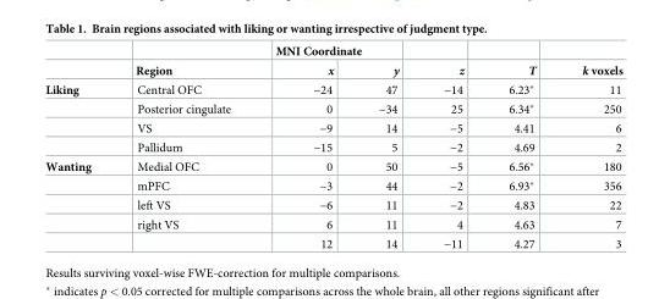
<table><thead><tr><td rowspan="2"></td><td rowspan="2">Region</td><td colspan="2">MNI Coordinate</td><td rowspan="2">z</td><td rowspan="2">T</td><td rowspan="2">k voxels</td></tr><tr><td>x</td><td>y</td></tr></thead><tbody><tr><td rowspan="4">Liking</td><td>Central OFC</td><td>−24</td><td>47</td><td>−14</td><td>6.23*</td><td>11</td></tr><tr><td>Posterior cingulate</td><td>0</td><td>−34</td><td>25</td><td>6.34*</td><td>250</td></tr><tr><td>VS</td><td>−9</td><td>14</td><td>−5</td><td>4.41</td><td>6</td></tr><tr><td>Pallidum</td><td>−15</td><td>5</td><td>−2</td><td>4.69</td><td>2</td></tr><tr><td rowspan="5">Wanting</td><td>Medial OFC</td><td>0</td><td>50</td><td>−5</td><td>6.56*</td><td>180</td></tr><tr><td>mPFC</td><td>−3</td><td>44</td><td>−2</td><td>6.93*</td><td>356</td></tr><tr><td>left VS</td><td>−6</td><td>11</td><td>−2</td><td>4.83</td><td>22</td></tr><tr><td>right VS</td><td>6</td><td>11</td><td>4</td><td>4.63</td><td>7</td></tr><tr><td></td><td>12</td><td>14</td><td>−11</td><td>4.27</td><td>3</td></tr></tbody></table>